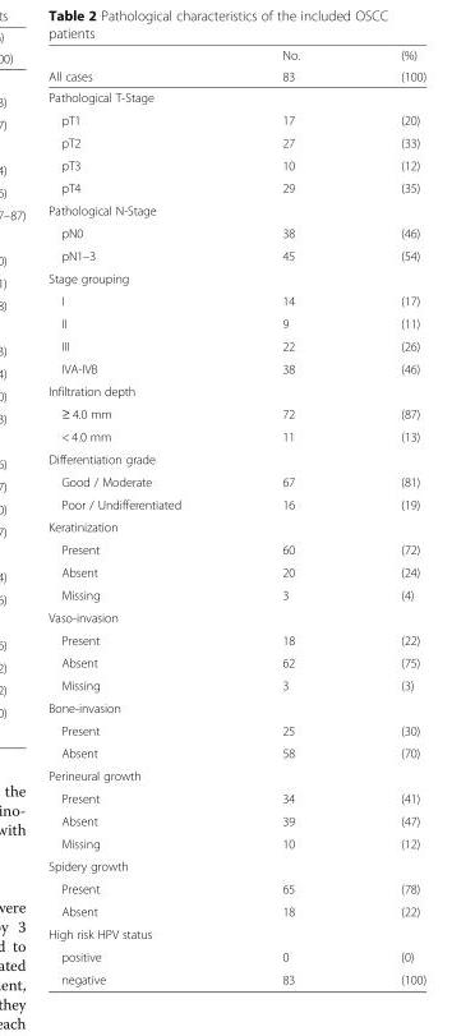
<table><thead><tr><td rowspan="2">All cases</td><td rowspan="2">No. 83</td><td rowspan="2">(%) (100)</td></tr><tr></tr></thead><tbody><tr><td colspan="3">Pathological T-Stage</td></tr><tr><td>pT1</td><td>17</td><td>(20)</td></tr><tr><td>pT2</td><td>27</td><td>(33)</td></tr><tr><td>pT3</td><td>10</td><td>(12)</td></tr><tr><td>pT4</td><td>29</td><td>(35)</td></tr><tr><td colspan="3">Pathological N-Stage</td></tr><tr><td>pN0</td><td>38</td><td>(46)</td></tr><tr><td>pN1–3</td><td>45</td><td>(54)</td></tr><tr><td colspan="3">Stage grouping</td></tr><tr><td>I</td><td>14</td><td>(17)</td></tr><tr><td>II</td><td>9</td><td>(11)</td></tr><tr><td>III</td><td>22</td><td>(26)</td></tr><tr><td>IVA-IVB</td><td>38</td><td>(46)</td></tr><tr><td colspan="3">Infiltration depth</td></tr><tr><td>≥ 4.0 mm</td><td>72</td><td>(87)</td></tr><tr><td>&lt; 4.0 mm</td><td>11</td><td>(13)</td></tr><tr><td colspan="3">Differentiation grade</td></tr><tr><td>Good / Moderate</td><td>67</td><td>(81)</td></tr><tr><td>Poor / Undifferentiated</td><td>16</td><td>(19)</td></tr><tr><td colspan="3">Keratinization</td></tr><tr><td>Present</td><td>60</td><td>(72)</td></tr><tr><td>Absent</td><td>20</td><td>(24)</td></tr><tr><td>Missing</td><td>3</td><td>(4)</td></tr><tr><td colspan="3">Vaso-invasion</td></tr><tr><td>Present</td><td>18</td><td>(22)</td></tr><tr><td>Absent</td><td>62</td><td>(75)</td></tr><tr><td>Missing</td><td>3</td><td>(3)</td></tr><tr><td colspan="3">Bone-invasion</td></tr><tr><td>Present</td><td>25</td><td>(30)</td></tr><tr><td>Absent</td><td>58</td><td>(70)</td></tr><tr><td colspan="3">Perineural growth</td></tr><tr><td>Present</td><td>34</td><td>(41)</td></tr><tr><td>Absent</td><td>39</td><td>(47)</td></tr><tr><td>Missing</td><td>10</td><td>(12)</td></tr><tr><td colspan="3">Spidery growth</td></tr><tr><td>Present</td><td>65</td><td>(78)</td></tr><tr><td>Absent</td><td>18</td><td>(22)</td></tr><tr><td colspan="3">High risk HPV status</td></tr><tr><td>positive</td><td>0</td><td>(0)</td></tr><tr><td>negative</td><td>83</td><td>(100)</td></tr></tbody></table>